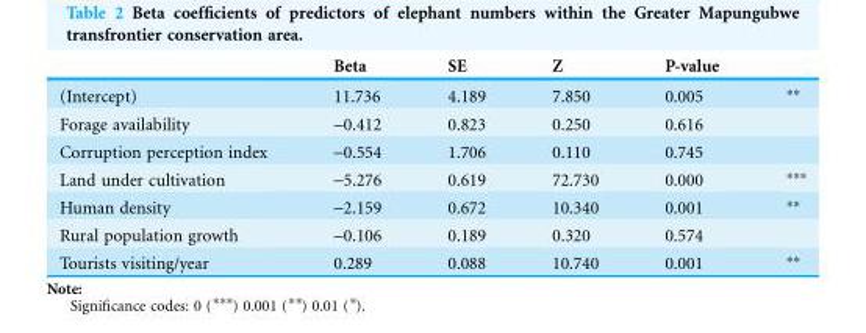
<table><thead><tr><td></td><td>Beta</td><td>SE</td><td>Z</td><td>P-value</td><td></td></tr></thead><tbody><tr><td>(Intercept)</td><td>11.736</td><td>4.189</td><td>7.850</td><td>0.005</td><td>**</td></tr><tr><td>Forage availability</td><td>-0.412</td><td>0.823</td><td>0.250</td><td>0.616</td><td></td></tr><tr><td>Corruption perception index</td><td>-0.554</td><td>1.706</td><td>0.110</td><td>0.745</td><td></td></tr><tr><td>Land under cultivation</td><td>-5.276</td><td>0.619</td><td>72.730</td><td>0.000</td><td>***</td></tr><tr><td>Human density</td><td>-2.159</td><td>0.672</td><td>10.340</td><td>0.001</td><td>**</td></tr><tr><td>Rural population growth</td><td>-0.106</td><td>0.189</td><td>0.320</td><td>0.574</td><td></td></tr><tr><td>Tourists visiting/year</td><td>0.289</td><td>0.088</td><td>10.740</td><td>0.001</td><td>**</td></tr></tbody></table>